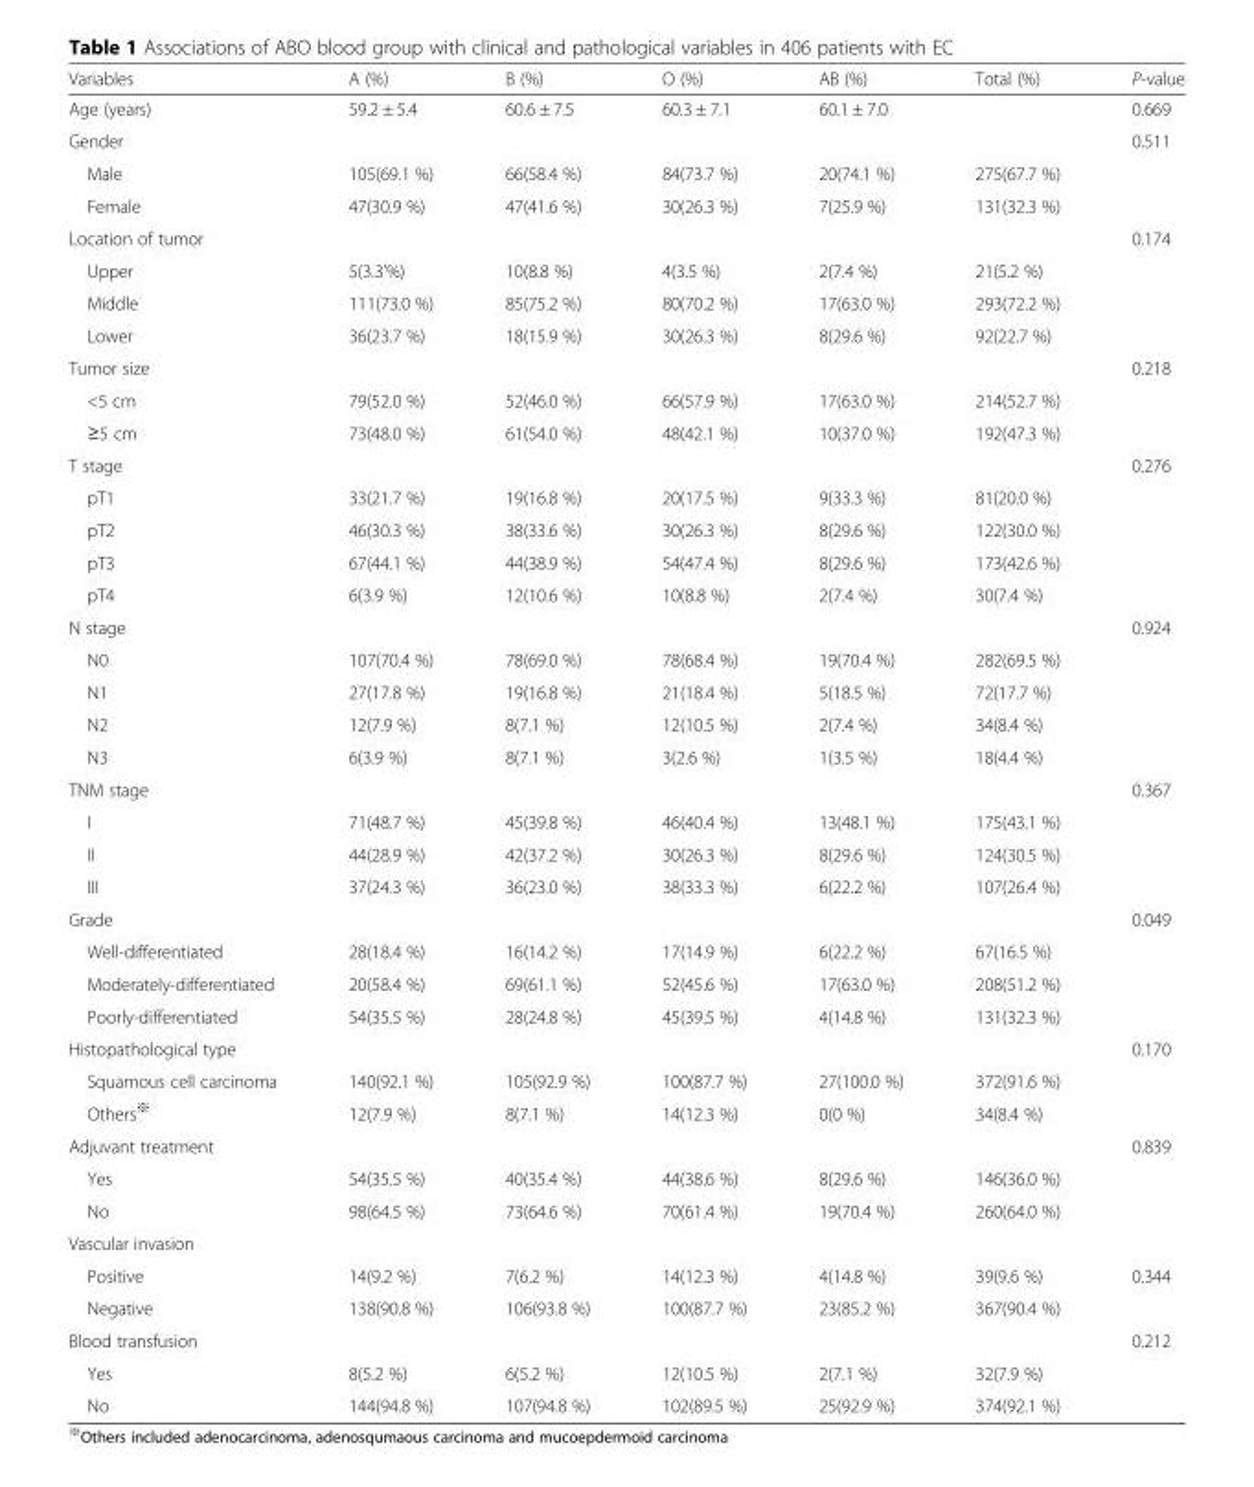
<table><thead><tr><td>Variables</td><td>A (%)</td><td>B (%)</td><td>O (%)</td><td>AB (%)</td><td>Total (%)</td><td>P-value</td></tr></thead><tbody><tr><td>Age (years)</td><td>59.2 ± 5.4</td><td>60.6 ± 7.5</td><td>60.3 ± 7.1</td><td>60.1 ± 7.0</td><td></td><td>0.669</td></tr><tr><td>Gender</td><td></td><td></td><td></td><td></td><td></td><td>0.511</td></tr><tr><td>Male</td><td>105(69.1 %)</td><td>66(58.4 %)</td><td>84(73.7 %)</td><td>20(74.1 %)</td><td>275(67.7 %)</td><td></td></tr><tr><td>Female</td><td>47(30.9 %)</td><td>47(41.6 %)</td><td>30(26.3 %)</td><td>7(25.9 %)</td><td>131(32.3 %)</td><td></td></tr><tr><td>Location of tumor</td><td></td><td></td><td></td><td></td><td></td><td>0.174</td></tr><tr><td>Upper</td><td>5(3.3’%)</td><td>10(8.8 %)</td><td>4(3.5 %)</td><td>2(7.4 %)</td><td>21(5.2 %)</td><td></td></tr><tr><td>Middle</td><td>111(73.0 %)</td><td>85(75.2 %)</td><td>80(70.2 %)</td><td>17(63.0 %)</td><td>293(72.2 %)</td><td></td></tr><tr><td>Lower</td><td>36(23.7 %)</td><td>18(15.9 %)</td><td>30(26.3 %)</td><td>8(29.6 %)</td><td>92(22.7 %)</td><td></td></tr><tr><td>Tumor size</td><td></td><td></td><td></td><td></td><td></td><td>0.218</td></tr><tr><td>&lt;5 cm</td><td>79(52.0 %)</td><td>52(46.0 %)</td><td>66(57.9 %)</td><td>17(63.0 %)</td><td>214(52.7 %)</td><td></td></tr><tr><td>≥5 cm</td><td>73(48.0 %)</td><td>61(54.0 %)</td><td>48(42.1 %)</td><td>10(37.0 %)</td><td>192(47.3 %)</td><td></td></tr><tr><td>T stage</td><td></td><td></td><td></td><td></td><td></td><td>0.276</td></tr><tr><td>pT1</td><td>33(21.7 %)</td><td>19(16.8 %)</td><td>20(17.5 %)</td><td>9(33.3 %)</td><td>81(20.0 %)</td><td></td></tr><tr><td>pT2</td><td>46(30.3 %)</td><td>38(33.6 %)</td><td>30(26.3 %)</td><td>8(29.6 %)</td><td>122(30.0 %)</td><td></td></tr><tr><td>pT3</td><td>67(44.1 %)</td><td>44(38.9 %)</td><td>54(47.4 %)</td><td>8(29.6 %)</td><td>173(42.6 %)</td><td></td></tr><tr><td>pT4</td><td>6(3.9 %)</td><td>12(10.6 %)</td><td>10(8.8 %)</td><td>2(7.4 %)</td><td>30(7.4 %)</td><td></td></tr><tr><td>N stage</td><td></td><td></td><td></td><td></td><td></td><td>0.924</td></tr><tr><td>N0</td><td>107(70.4 %)</td><td>78(69.0 %)</td><td>78(68.4 %)</td><td>19(70.4 %)</td><td>282(69.5 %)</td><td></td></tr><tr><td>N1</td><td>27(17.8 %)</td><td>19(16.8 %)</td><td>21(18.4 %)</td><td>5(18.5 %)</td><td>72(17.7 %)</td><td></td></tr><tr><td>N2</td><td>12(7.9 %)</td><td>8(7.1 %)</td><td>12(10.5 %)</td><td>2(7.4 %)</td><td>34(8.4 %)</td><td></td></tr><tr><td>N3</td><td>6(3.9 %)</td><td>8(7.1 %)</td><td>3(2.6 %)</td><td>1(3.5 %)</td><td>18(4.4 %)</td><td></td></tr><tr><td>TNM stage</td><td></td><td></td><td></td><td></td><td></td><td>0.367</td></tr><tr><td>I</td><td>71(48.7 %)</td><td>45(39.8 %)</td><td>46(40.4 %)</td><td>13(48.1 %)</td><td>175(43.1 %)</td><td></td></tr><tr><td>II</td><td>44(28.9 %)</td><td>42(37.2 %)</td><td>30(26.3 %)</td><td>8(29.6 %)</td><td>124(30.5 %)</td><td></td></tr><tr><td>III</td><td>37(24.3 %)</td><td>36(23.0 %)</td><td>38(33.3 %)</td><td>6(22.2 %)</td><td>107(26.4 %)</td><td></td></tr><tr><td>Grade</td><td></td><td></td><td></td><td></td><td></td><td>0.049</td></tr><tr><td>Well-differentiated</td><td>28(18.4 %)</td><td>16(14.2 %)</td><td>17(14.9 %)</td><td>6(22.2 %)</td><td>67(16.5 %)</td><td></td></tr><tr><td>Moderately-differentiated</td><td>20(58.4 %)</td><td>69(61.1 %)</td><td>52(45.6 %)</td><td>17(63.0 %)</td><td>208(51.2 %)</td><td></td></tr><tr><td>Poorly-differentiated</td><td>54(35.5 %)</td><td>28(24.8 %)</td><td>45(39.5 %)</td><td>4(14.8 %)</td><td>131(32.3 %)</td><td></td></tr><tr><td>Histopathological type</td><td></td><td></td><td></td><td></td><td></td><td>0.170</td></tr><tr><td>Squamous cell carcinoma</td><td>140(92.1 %)</td><td>105(92.9 %)</td><td>100(87.7 %)</td><td>27(100.0 %)</td><td>372(91.6 %)</td><td></td></tr><tr><td>Others<sup>※</sup></td><td>12(7.9 %)</td><td>8(7.1 %)</td><td>14(12.3 %)</td><td>0(0 %)</td><td>34(8.4 %)</td><td></td></tr><tr><td>Adjuvant treatment</td><td></td><td></td><td></td><td></td><td></td><td>0.839</td></tr><tr><td>Yes</td><td>54(35.5 %)</td><td>40(35.4 %)</td><td>44(38.6 %)</td><td>8(29.6 %)</td><td>146(36.0 %)</td><td></td></tr><tr><td>No</td><td>98(64.5 %)</td><td>73(64.6 %)</td><td>70(61.4 %)</td><td>19(70.4 %)</td><td>260(64.0 %)</td><td></td></tr><tr><td colspan="7">Vascular invasion</td></tr><tr><td>Positive</td><td>14(9.2 %)</td><td>7(6.2 %)</td><td>14(12.3 %)</td><td>4(14.8 %)</td><td>39(9.6 %)</td><td>0.344</td></tr><tr><td>Negative</td><td>138(90.8 %)</td><td>106(93.8 %)</td><td>100(87.7 %)</td><td>23(85.2 %)</td><td>367(90.4 %)</td><td></td></tr><tr><td>Blood transfusion</td><td></td><td></td><td></td><td></td><td></td><td>0.212</td></tr><tr><td>Yes</td><td>8(5.2 %)</td><td>6(5.2 %)</td><td>12(10.5 %)</td><td>2(7.1 %)</td><td>32(7.9 %)</td><td></td></tr><tr><td>No</td><td>144(94.8 %)</td><td>107(94.8 %)</td><td>102(89.5 %)</td><td>25(92.9 %)</td><td>374(92.1 %)</td><td></td></tr></tbody></table>